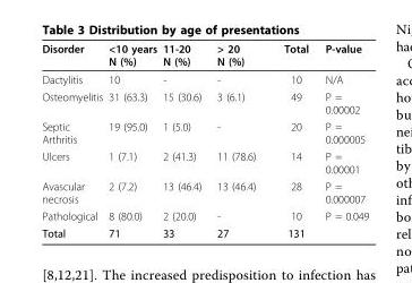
<table><thead><tr><td>Disorder</td><td>&lt;10 years N (%)</td><td>11-20 N (%)</td><td>&gt; 20 N (%)</td><td>Total</td><td>P-value</td></tr></thead><tbody><tr><td>Dactylitis</td><td>10</td><td>-</td><td>-</td><td>10</td><td>N/A</td></tr><tr><td>Osteomyelitis</td><td>31 (63.3)</td><td>15 (30.6)</td><td>3 (6.1)</td><td>49</td><td>P = 0.00002</td></tr><tr><td>Septic Arthritis</td><td>19 (95.0)</td><td>1 (5.0)</td><td>-</td><td>20</td><td>P = 0.000005</td></tr><tr><td>Ulcers</td><td>1 (7.1)</td><td>2 (41.3)</td><td>11 (78.6)</td><td>14</td><td>P = 0.00001</td></tr><tr><td>Avascular necrosis</td><td>2 (7.2)</td><td>13 (46.4)</td><td>13 (46.4)</td><td>28</td><td>P = 0.000007</td></tr><tr><td>Pathological</td><td>8 (80.0)</td><td>2 (20.0)</td><td>-</td><td>10</td><td>P = 0.049</td></tr><tr><td>Total</td><td>71</td><td>33</td><td>27</td><td>131</td><td></td></tr></tbody></table>